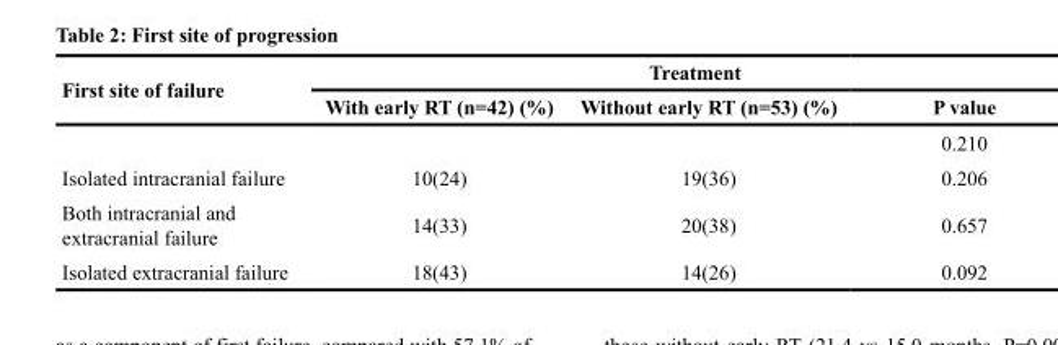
<table><thead><tr><td rowspan="2">First site of failure</td><td colspan="3">Treatment</td></tr><tr><td>With early RT (n=42) (%)</td><td>Without early RT (n=53) (%)</td><td>P value</td></tr></thead><tbody><tr><td></td><td></td><td></td><td>0.210</td></tr><tr><td>Isolated intracranial failure</td><td>10(24)</td><td>19(36)</td><td>0.206</td></tr><tr><td>Both intracranial and extracranial failure</td><td>14(33)</td><td>20(38)</td><td>0.657</td></tr><tr><td>Isolated extracranial failure</td><td>18(43)</td><td>14(26)</td><td>0.092</td></tr></tbody></table>